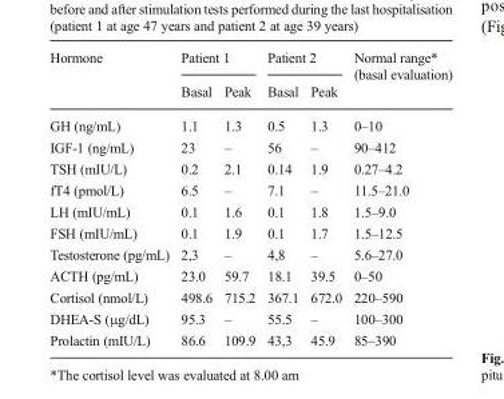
<table><thead><tr><td rowspan="2">Hormone</td><td colspan="2">Patient 1</td><td colspan="2">Patient 2</td><td rowspan="2">Normal range* (basal evaluation)</td></tr><tr><td>Basal</td><td>Peak</td><td>Basal</td><td>Peak</td></tr></thead><tbody><tr><td>GH (ng/mL)</td><td>1.1</td><td>1.3</td><td>0.5</td><td>1.3</td><td>0–10</td></tr><tr><td>IGF-1 (ng/mL)</td><td>23</td><td>–</td><td>56</td><td>–</td><td>90–412</td></tr><tr><td>TSH (mIU/L)</td><td>0.2</td><td>2.1</td><td>0.14</td><td>1.9</td><td>0.27–4.2</td></tr><tr><td>fT4 (pmol/L)</td><td>6.5</td><td>–</td><td>7.1</td><td>–</td><td>11.5–21.0</td></tr><tr><td>LH (mIU/mL)</td><td>0.1</td><td>1.6</td><td>0.1</td><td>1.8</td><td>1.5–9.0</td></tr><tr><td>FSH (mIU/mL)</td><td>0.1</td><td>1.9</td><td>0.1</td><td>1.7</td><td>1.5–12.5</td></tr><tr><td>Testosterone (pg/mL)</td><td>2,3</td><td>–</td><td>4,8</td><td>–</td><td>5.6–27.0</td></tr><tr><td>ACTH (pg/mL)</td><td>23.0</td><td>59.7</td><td>18.1</td><td>39.5</td><td>0–50</td></tr><tr><td>Cortisol (nmol/L)</td><td>498.6</td><td>715.2</td><td>367.1</td><td>672.0</td><td>220–590</td></tr><tr><td>DHEA-S (μg/dL)</td><td>95.3</td><td>–</td><td>55.5</td><td>–</td><td>100–300</td></tr><tr><td>Prolactin (mIU/L)</td><td>86.6</td><td>109.9</td><td>43,3</td><td>45.9</td><td>85–390</td></tr></tbody></table>